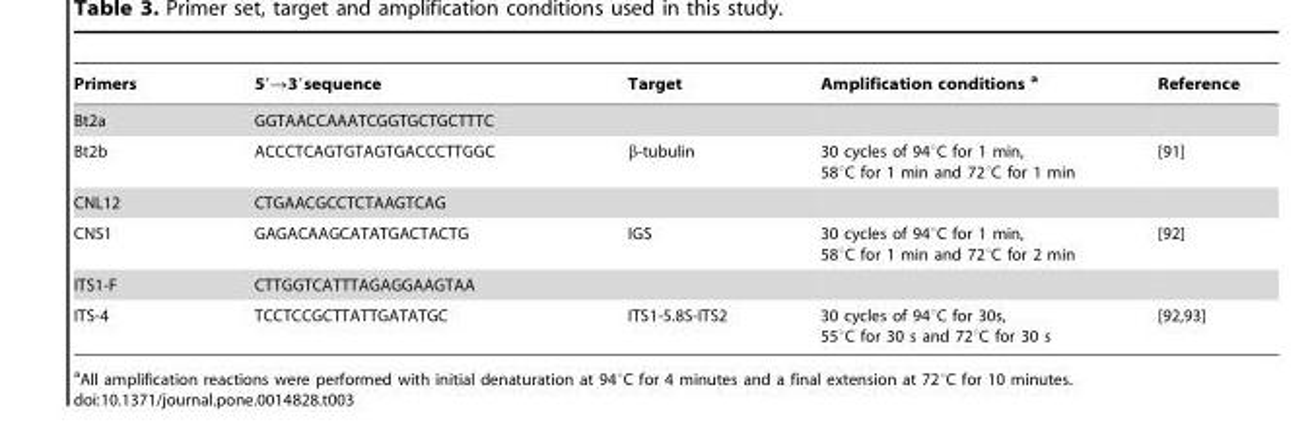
<table><thead><tr><td>Primers</td><td>5′→3′sequence</td><td>Target</td><td>Amplification conditions a</td><td>Reference</td></tr></thead><tbody><tr><td>Bt2a</td><td>GGTAACCAAATCGGTGCTGCTTTC</td><td></td><td></td><td></td></tr><tr><td>Bt2b</td><td>ACCCTCAGTGTAGTGACCCTTGGC</td><td>β-tubulin</td><td>30 cycles of 94°C for 1 min, 58°C for 1 min and 72°C for 1 min</td><td>[91]</td></tr><tr><td>CNL12</td><td>CTGAACGCCTCTAAGTCAG</td><td></td><td></td><td></td></tr><tr><td>CNS1</td><td>GAGACAAGCATATGACTACTG</td><td>IGS</td><td>30 cycles of 94°C for 1 min, 58°C for 1 min and 72°C for 2 min</td><td>[92]</td></tr><tr><td>ITS1-F</td><td>CTTGGTCATTTAGAGGAAGTAA</td><td></td><td></td><td></td></tr><tr><td>ITS-4</td><td>TCCTCCGCTTATTGATATGC</td><td>ITS1-5.8S-ITS2</td><td>30 cycles of 94°C for 30s, 55°C for 30 s and 72°C for 30 s</td><td>[92,93]</td></tr></tbody></table>